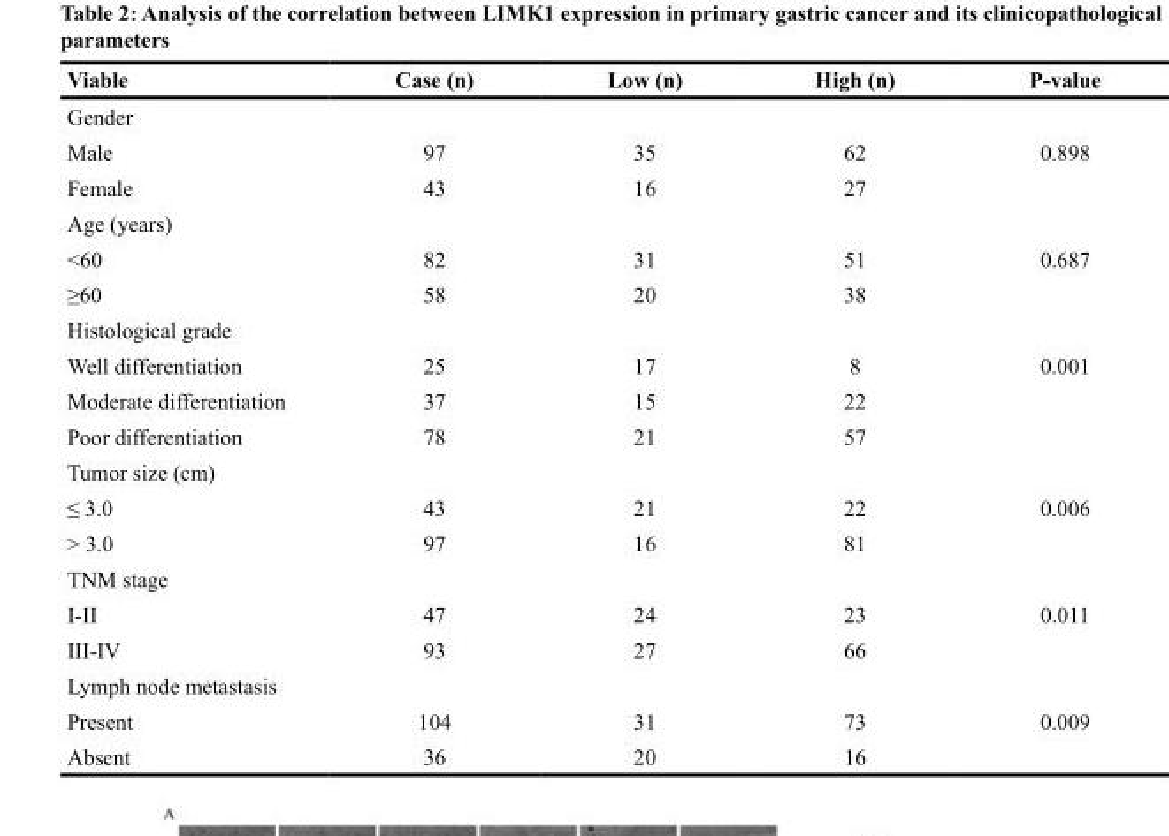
<table><thead><tr><td>Viable</td><td>Case (n)</td><td>Low (n)</td><td>High (n)</td><td>P-value</td></tr></thead><tbody><tr><td colspan="5">Gender</td></tr><tr><td>Male</td><td>97</td><td>35</td><td>62</td><td>0.898</td></tr><tr><td>Female</td><td>43</td><td>16</td><td>27</td><td></td></tr><tr><td colspan="5">Age (years)</td></tr><tr><td>&lt;60</td><td>82</td><td>31</td><td>51</td><td>0.687</td></tr><tr><td>≥60</td><td>58</td><td>20</td><td>38</td><td></td></tr><tr><td colspan="5">Histological grade</td></tr><tr><td>Well differentiation</td><td>25</td><td>17</td><td>8</td><td>0.001</td></tr><tr><td>Moderate differentiation</td><td>37</td><td>15</td><td>22</td><td></td></tr><tr><td>Poor differentiation</td><td>78</td><td>21</td><td>57</td><td></td></tr><tr><td colspan="5">Tumor size (cm)</td></tr><tr><td>≤ 3.0</td><td>43</td><td>21</td><td>22</td><td>0.006</td></tr><tr><td>&gt; 3.0</td><td>97</td><td>16</td><td>81</td><td></td></tr><tr><td colspan="5">TNM stage</td></tr><tr><td>I-II</td><td>47</td><td>24</td><td>23</td><td>0.011</td></tr><tr><td>III-IV</td><td>93</td><td>27</td><td>66</td><td></td></tr><tr><td colspan="5">Lymph node metastasis</td></tr><tr><td>Present</td><td>104</td><td>31</td><td>73</td><td>0.009</td></tr><tr><td>Absent</td><td>36</td><td>20</td><td>16</td><td></td></tr></tbody></table>